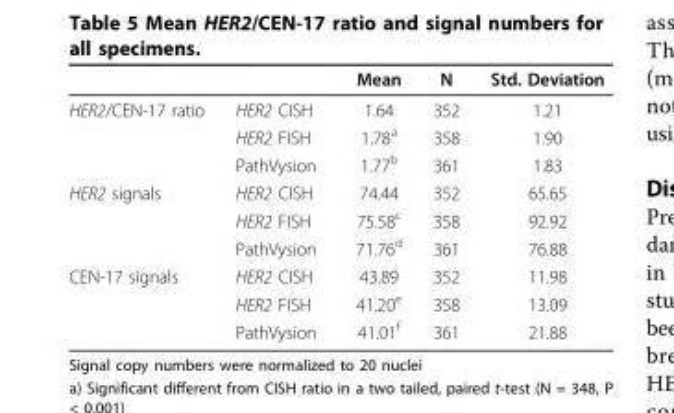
<table><thead><tr><td></td><td></td><td>Mean</td><td>N</td><td>Std. Deviation</td></tr></thead><tbody><tr><td rowspan="3">HER2/CEN-17 ratio</td><td>HER2 CISH</td><td>1.64</td><td>352</td><td>1.21</td></tr><tr><td>HER2 FISH</td><td>1.78<sup>a</sup></td><td>358</td><td>1.90</td></tr><tr><td>PathVysion</td><td>1.77<sup>b</sup></td><td>361</td><td>1.83</td></tr><tr><td rowspan="3">HER2 signals</td><td>HER2 CISH</td><td>74.44</td><td>352</td><td>65.65</td></tr><tr><td>HER2 FISH</td><td>75.58<sup>c</sup></td><td>358</td><td>92.92</td></tr><tr><td>PathVysion</td><td>71.76<sup>d</sup></td><td>361</td><td>76.88</td></tr><tr><td rowspan="3">CEN-17 signals</td><td>HER2 CISH</td><td>43.89</td><td>352</td><td>11.98</td></tr><tr><td>HER2 FISH</td><td>41.20<sup>e</sup></td><td>358</td><td>13.09</td></tr><tr><td>PathVysion</td><td>41.01<sup>f</sup></td><td>361</td><td>21.88</td></tr></tbody></table>